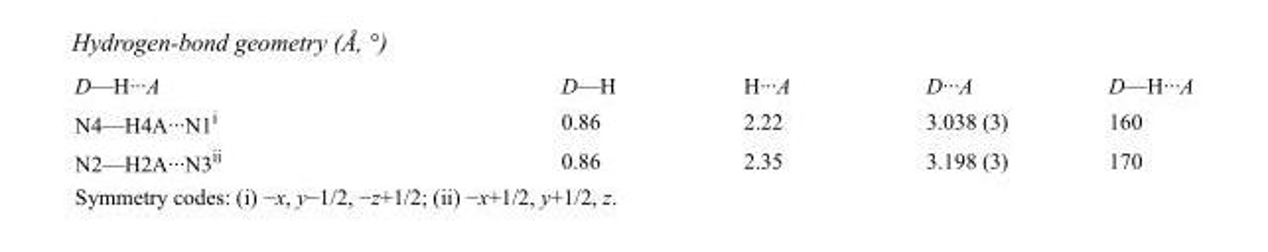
<table><tbody><tr><td>D—H···A</td><td>D—H</td><td>H···A</td><td>D···A</td><td>D—H···A</td></tr><tr><td>N4—H4A···N1<sup>i</sup></td><td>0.86</td><td>2.22</td><td>3.038 (3)</td><td>160</td></tr><tr><td>N2—H2A···N3<sup>ii</sup></td><td>0.86</td><td>2.35</td><td>3.198 (3)</td><td>170</td></tr></tbody></table>